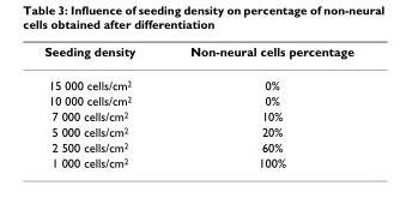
<table><thead><tr><td>Seeding density</td><td>Non-neural cells percentage</td></tr></thead><tbody><tr><td>15 000 cells/cm<sup>2</sup></td><td>0%</td></tr><tr><td>10 000 cells/cm<sup>2</sup></td><td>0%</td></tr><tr><td>7 000 cells/cm<sup>2</sup></td><td>10%</td></tr><tr><td>5 000 cells/cm<sup>2</sup></td><td>20%</td></tr><tr><td>2 500 cells/cm<sup>2</sup></td><td>60%</td></tr><tr><td>1 000 cells/cm<sup>2</sup></td><td>100%</td></tr></tbody></table>